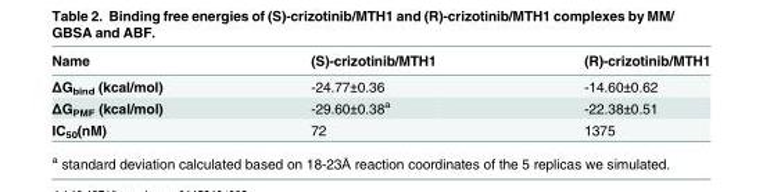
<table><thead><tr><td>Name</td><td>(S)-crizotinib/MTH1</td><td>(R)-crizotinib/MTH1</td></tr></thead><tbody><tr><td>ΔG<sub>bind</sub> (kcal/mol)</td><td>-24.77±0.36</td><td>-14.60±0.62</td></tr><tr><td>ΔG<sub>PMF</sub> (kcal/mol)</td><td>-29.60±0.38<sup>a</sup></td><td>-22.38±0.51</td></tr><tr><td>IC<sub>50</sub>(nM)</td><td>72</td><td>1375</td></tr></tbody></table>